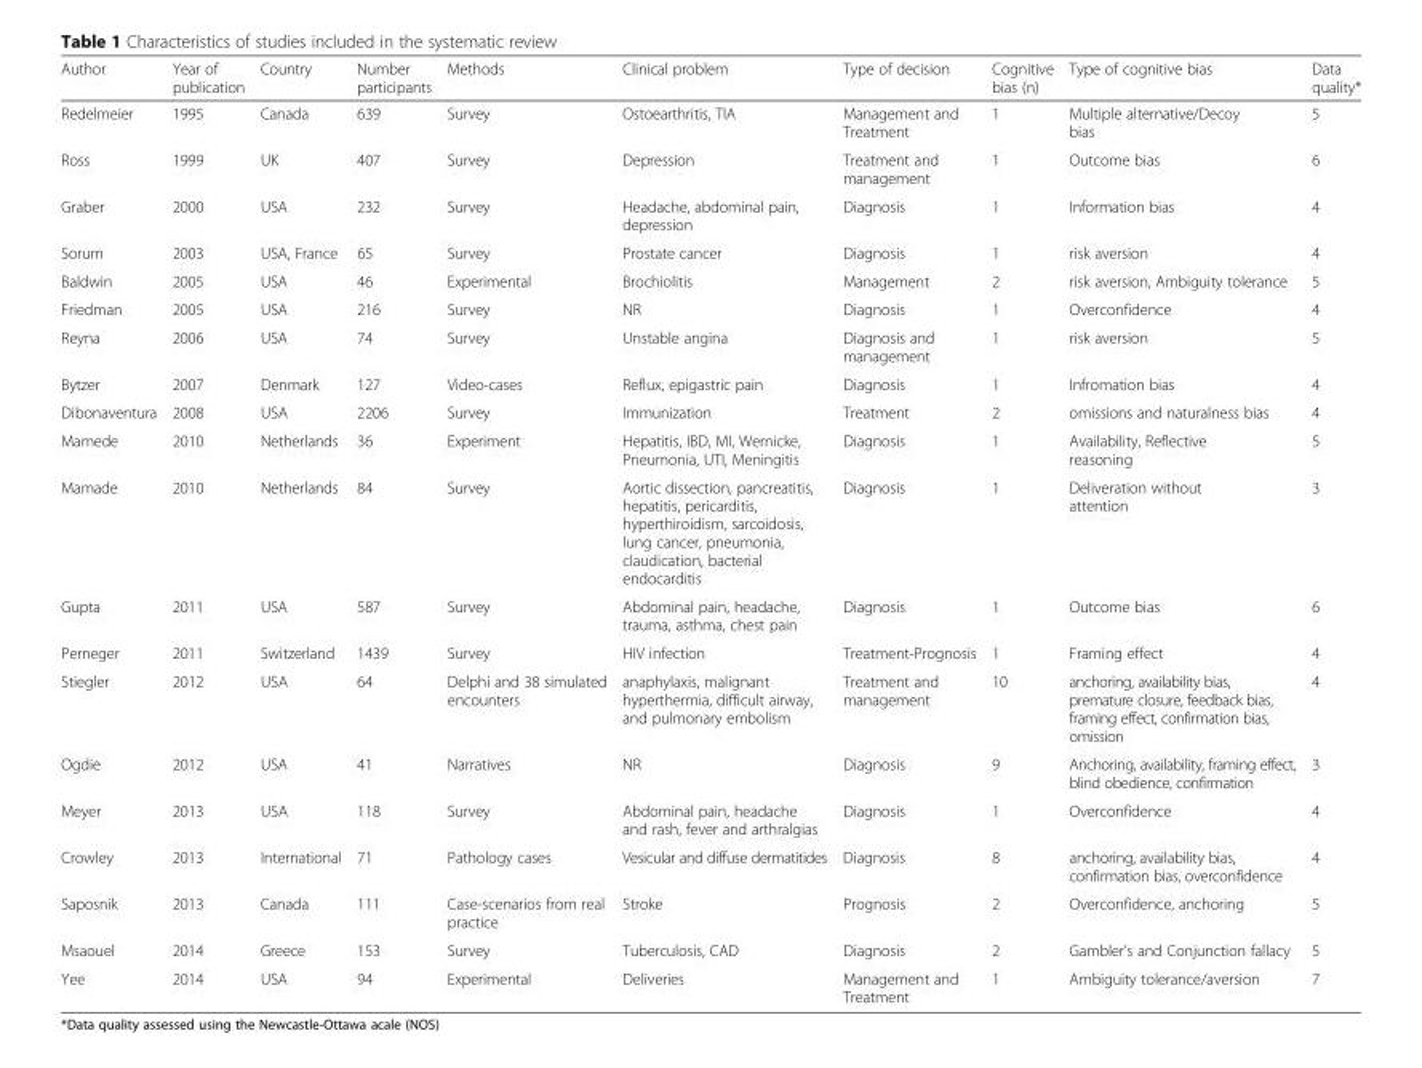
<table><thead><tr><td>Author</td><td>Year of publication</td><td>Country</td><td>Number participants</td><td>Methods</td><td>Clinical problem</td><td>Type of decision</td><td>Cognitive bias (n)</td><td>Type of cognitive bias</td><td>Data quality*</td></tr></thead><tbody><tr><td>Redelmeier</td><td>1995</td><td>Canada</td><td>639</td><td>Survey</td><td>Ostoearthritis, TIA</td><td>Management and Treatment</td><td>1</td><td>Multiple alternative/Decoy bias</td><td>5</td></tr><tr><td>Ross</td><td>1999</td><td>UK</td><td>407</td><td>Survey</td><td>Depression</td><td>Treatment and management</td><td>1</td><td>Outcome bias</td><td>6</td></tr><tr><td>Graber</td><td>2000</td><td>USA</td><td>232</td><td>Survey</td><td>Headache, abdominal pain, depression</td><td>Diagnosis</td><td>1</td><td>Information bias</td><td>4</td></tr><tr><td>Sorum</td><td>2003</td><td>USA, France</td><td>65</td><td>Survey</td><td>Prostate cancer</td><td>Diagnosis</td><td>1</td><td>risk aversion</td><td>4</td></tr><tr><td>Baldwin</td><td>2005</td><td>USA</td><td>46</td><td>Experimental</td><td>Brochiolitis</td><td>Management</td><td>2</td><td>risk aversion, Ambiguity tolerance</td><td>5</td></tr><tr><td>Friedman</td><td>2005</td><td>USA</td><td>216</td><td>Survey</td><td>NR</td><td>Diagnosis</td><td>1</td><td>Overconfidence</td><td>4</td></tr><tr><td>Reyna</td><td>2006</td><td>USA</td><td>74</td><td>Survey</td><td>Unstable angina</td><td>Diagnosis and management</td><td>1</td><td>risk aversion</td><td>5</td></tr><tr><td>Bytzer</td><td>2007</td><td>Denmark</td><td>127</td><td>Video-cases</td><td>Reflux, epigastric pain</td><td>Diagnosis</td><td>1</td><td>Infromation bias</td><td>4</td></tr><tr><td>Dibonaventura</td><td>2008</td><td>USA</td><td>2206</td><td>Survey</td><td>Immunization</td><td>Treatment</td><td>2</td><td>omissions and naturalness bias</td><td>4</td></tr><tr><td>Mamede</td><td>2010</td><td>Netherlands</td><td>36</td><td>Experiment</td><td>Hepatitis, IBD, MI, Wernicke, Pneumonia, UTI, Meningitis</td><td>Diagnosis</td><td>1</td><td>Availability, Reflective reasoning</td><td>5</td></tr><tr><td>Mamade</td><td>2010</td><td>Netherlands</td><td>84</td><td>Survey</td><td>Aortic dissection, pancreatitis, hepatitis, pericarditis, hyperthiroidism, sarcoidosis, lung cancer, pneumonia, claudication, bacterial endocarditis</td><td>Diagnosis</td><td>1</td><td>Deliveration without attention</td><td>3</td></tr><tr><td>Gupta</td><td>2011</td><td>USA</td><td>587</td><td>Survey</td><td>Abdominal pain, headache, trauma, asthma, chest pain</td><td>Diagnosis</td><td>1</td><td>Outcome bias</td><td>6</td></tr><tr><td>Perneger</td><td>2011</td><td>Switzerland</td><td>1439</td><td>Survey</td><td>HIV infection</td><td>Treatment-Prognosis</td><td>1</td><td>Framing effect</td><td>4</td></tr><tr><td>Stiegler</td><td>2012</td><td>USA</td><td>64</td><td>Delphi and 38 simulated encounters</td><td>anaphylaxis, malignant hyperthermia, difficult airway, and pulmonary embolism</td><td>Treatment and management</td><td>10</td><td>anchoring, availability bias, premature closure, feedback bias, framing effect, confirmation bias, omission</td><td>4</td></tr><tr><td>Ogdie</td><td>2012</td><td>USA</td><td>41</td><td>Narratives</td><td>NR</td><td>Diagnosis</td><td>9</td><td>Anchoring, availability, framing effect, blind obedience, confirmation</td><td>3</td></tr><tr><td>Meyer</td><td>2013</td><td>USA</td><td>118</td><td>Survey</td><td>Abdominal pain, headache and rash, fever and arthralgias</td><td>Diagnosis</td><td>1</td><td>Overconfidence</td><td>4</td></tr><tr><td>Crowley</td><td>2013</td><td>International</td><td>71</td><td>Pathology cases</td><td>Vesicular and diffuse dermatitides</td><td>Diagnosis</td><td>8</td><td>anchoring, availability bias, confirmation bias, overconfidence</td><td>4</td></tr><tr><td>Saposnik</td><td>2013</td><td>Canada</td><td>111</td><td>Case-scenarios from real practice</td><td>Stroke</td><td>Prognosis</td><td>2</td><td>Overconfidence, anchoring</td><td>5</td></tr><tr><td>Msaouel</td><td>2014</td><td>Greece</td><td>153</td><td>Survey</td><td>Tuberculosis, CAD</td><td>Diagnosis</td><td>2</td><td>Gambler’s and Conjunction fallacy</td><td>5</td></tr><tr><td>Yee</td><td>2014</td><td>USA</td><td>94</td><td>Experimental</td><td>Deliveries</td><td>Management and Treatment</td><td>1</td><td>Ambiguity tolerance/aversion</td><td>7</td></tr></tbody></table>